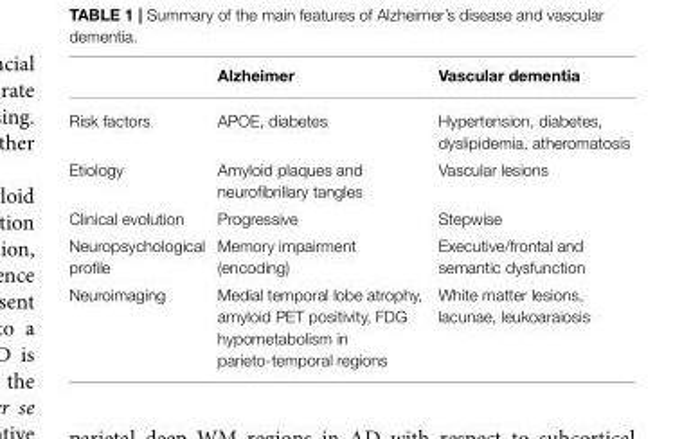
<table><thead><tr><td></td><td>Alzheimer</td><td>Vascular dementia</td></tr></thead><tbody><tr><td>Risk factors</td><td>APOE, diabetes</td><td>Hypertension, diabetes, dyslipidemia, atheromatosis</td></tr><tr><td>Etiology</td><td>Amyloid plaques and neurofibrillary tangles</td><td>Vascular lesions</td></tr><tr><td>Clinical evolution</td><td>Progressive</td><td>Stepwise</td></tr><tr><td>Neuropsychological profile</td><td>Memory impairment (encoding)</td><td>Executive/frontal and semantic dysfunction</td></tr><tr><td>Neuroimaging</td><td>Medial temporal lobe atrophy, amyloid PET positivity, FDG hypometabolism in parieto-temporal regions</td><td>White matter lesions, lacunae, leukoaraiosis</td></tr></tbody></table>